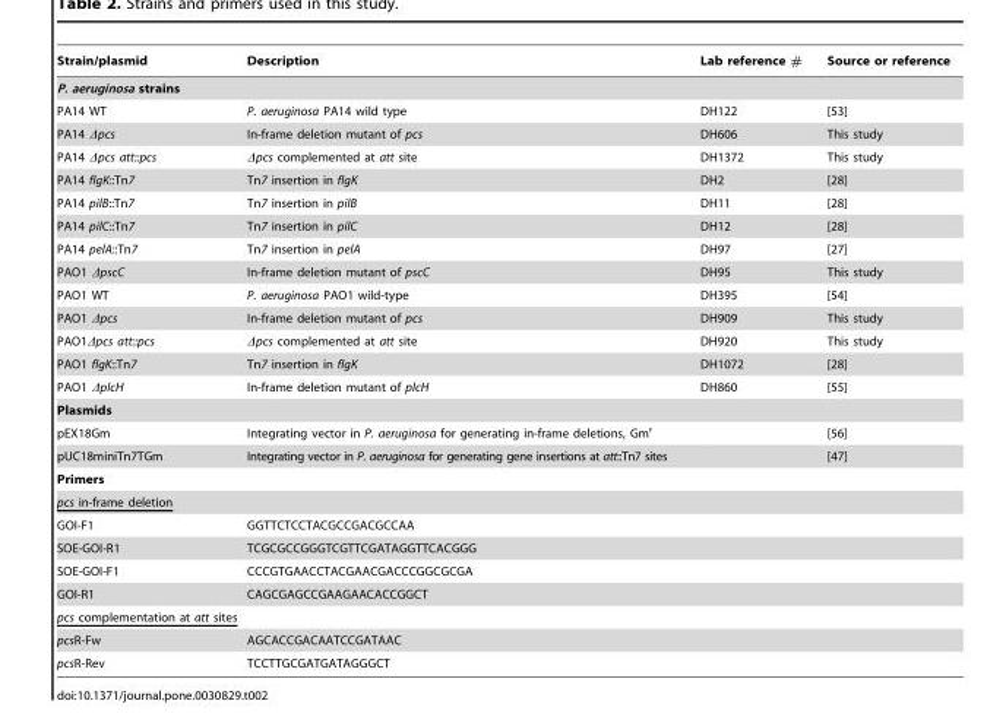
<table><thead><tr><td>Strain/plasmid</td><td>Description</td><td>Lab reference #</td><td>Source or reference</td></tr></thead><tbody><tr><td colspan="4">P. aeruginosa strains</td></tr><tr><td>PA14 WT</td><td>P. aeruginosa PA14 wild type</td><td>DH122</td><td>[53]</td></tr><tr><td>PA14 Δpcs</td><td>In-frame deletion mutant of pcs</td><td>DH606</td><td>This study</td></tr><tr><td>PA14 Δpcs att::pcs</td><td>Δpcs complemented at att site</td><td>DH1372</td><td>This study</td></tr><tr><td>PA14 flgK::Tn7</td><td>Tn7 insertion in flgK</td><td>DH2</td><td>[28]</td></tr><tr><td>PA14 pilB::Tn7</td><td>Tn7 insertion in pilB</td><td>DH11</td><td>[28]</td></tr><tr><td>PA14 pilC::Tn7</td><td>Tn7 insertion in pilC</td><td>DH12</td><td>[28]</td></tr><tr><td>PA14 pelA::Tn7</td><td>Tn7 insertion in pelA</td><td>DH97</td><td>[27]</td></tr><tr><td>PAO1 ΔpscC</td><td>In-frame deletion mutant of pscC</td><td>DH95</td><td>This study</td></tr><tr><td>PAO1 WT</td><td>P. aeruginosa PAO1 wild-type</td><td>DH395</td><td>[54]</td></tr><tr><td>PAO1 Δpcs</td><td>In-frame deletion mutant of pcs</td><td>DH909</td><td>This study</td></tr><tr><td>PAO1Δpcs att::pcs</td><td>Δpcs complemented at att site</td><td>DH920</td><td>This study</td></tr><tr><td>PAO1 flgK::Tn7</td><td>Tn7 insertion in flgK</td><td>DH1072</td><td>[28]</td></tr><tr><td>PAO1 ΔplcH</td><td>In-frame deletion mutant of plcH</td><td>DH860</td><td>[55]</td></tr><tr><td colspan="4">Plasmids</td></tr><tr><td>pEX18Gm</td><td>Integrating vector in P. aeruginosa for generating in-frame deletions, Gm<sup>r</sup></td><td></td><td>[56]</td></tr><tr><td>pUC18miniTn7TGm</td><td>Integrating vector in P. aeruginosa for generating gene insertions at att::Tn7 sites</td><td></td><td>[47]</td></tr><tr><td colspan="4">Primers</td></tr><tr><td colspan="4">pcs in-frame deletion</td></tr><tr><td>GOI-F1</td><td colspan="3">GGTTCTCCTACGCCGACGCCAA</td></tr><tr><td>SOE-GOI-R1</td><td colspan="3">TCGCGCCGGGTCGTTCGATAGGTTCACGGG</td></tr><tr><td>SOE-GOI-F1</td><td colspan="3">CCCGTGAACCTACGAACGACCCGGCGCGA</td></tr><tr><td>GOI-R1</td><td colspan="3">CAGCGAGCCGAAGAACACCGGCT</td></tr><tr><td colspan="4">pcs complementation at att sites</td></tr><tr><td>pcsR-Fw</td><td colspan="3">AGCACCGACAATCCGATAAC</td></tr><tr><td>pcsR-Rev</td><td colspan="3">TCCTTGCGATGATAGGGCT</td></tr></tbody></table>